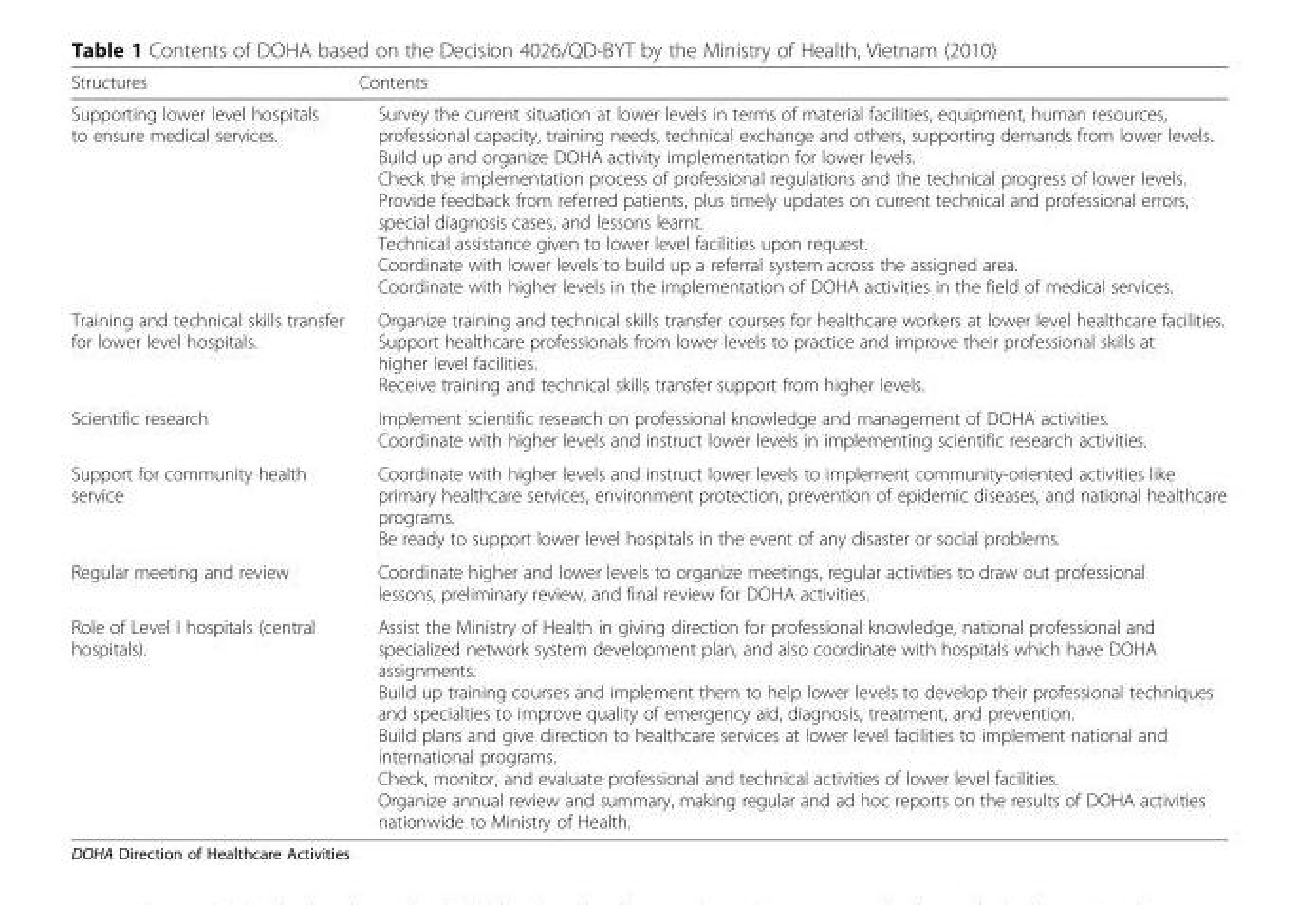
<table><thead><tr><td>Structures</td><td>Contents</td></tr></thead><tbody><tr><td>Supporting lower level hospitals to ensure medical services.</td><td>Survey the current situation at lower levels in terms of material facilities, equipment, human resources, professional capacity, training needs, technical exchange and others, supporting demands from lower levels. Build up and organize DOHA activity implementation for lower levels. Check the implementation process of professional regulations and the technical progress of lower levels. Provide feedback from referred patients, plus timely updates on current technical and professional errors, special diagnosis cases, and lessons learnt. Technical assistance given to lower level facilities upon request. Coordinate with lower levels to build up a referral system across the assigned area. Coordinate with higher levels in the implementation of DOHA activities in the field of medical services.</td></tr><tr><td>Training and technical skills transfer for lower level hospitals.</td><td>Organize training and technical skills transfer courses for healthcare workers at lower level healthcare facilities. Support healthcare professionals from lower levels to practice and improve their professional skills at higher level facilities. Receive training and technical skills transfer support from higher levels.</td></tr><tr><td>Scientific research</td><td>Implement scientific research on professional knowledge and management of DOHA activities. Coordinate with higher levels and instruct lower levels in implementing scientific research activities.</td></tr><tr><td>Support for community health service</td><td>Coordinate with higher levels and instruct lower levels to implement community-oriented activities like primary healthcare services, environment protection, prevention of epidemic diseases, and national healthcare programs. Be ready to support lower level hospitals in the event of any disaster or social problems.</td></tr><tr><td>Regular meeting and review</td><td>Coordinate higher and lower levels to organize meetings, regular activities to draw out professional lessons, preliminary review, and final review for DOHA activities.</td></tr><tr><td>Role of Level I hospitals (central hospitals).</td><td>Assist the Ministry of Health in giving direction for professional knowledge, national professional and specialized network system development plan, and also coordinate with hospitals which have DOHA assignments. Build up training courses and implement them to help lower levels to develop their professional techniques and specialties to improve quality of emergency aid, diagnosis, treatment, and prevention. Build plans and give direction to healthcare services at lower level facilities to implement national and international programs. Check, monitor, and evaluate professional and technical activities of lower level facilities. Organize annual review and summary, making regular and ad hoc reports on the results of DOHA activities nationwide to Ministry of Health.</td></tr></tbody></table>